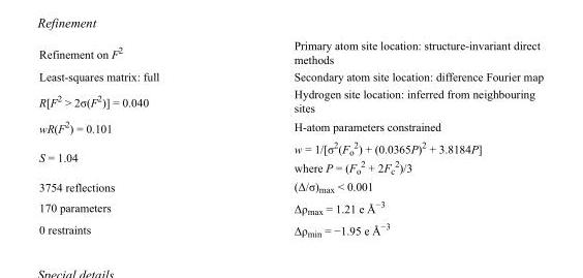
<table><tbody><tr><td>Refinement on F<sup>2</sup></td><td>Primary atom site location: structure-invariant direct methods</td></tr><tr><td>Least-squares matrix: full</td><td>Secondary atom site location: difference Fourier map</td></tr><tr><td>R[F<sup>2</sup> &gt; 2σ(F<sup>2</sup>)] = 0.040</td><td>Hydrogen site location: inferred from neighbouring sites</td></tr><tr><td>wR(F<sup>2</sup>) = 0.101</td><td>H-atom parameters constrained</td></tr><tr><td>S = 1.04</td><td>w = 1/[σ<sup>2</sup>(F<sub>o</sub> <sup>2</sup>) + (0.0365P)<sup>2</sup> + 3.8184P] where P = (F<sub>o</sub> <sup>2</sup> + 2F<sub>c</sub> <sup>2</sup>)/3</td></tr><tr><td>3754 reflections</td><td>(Δ/σ)<sub>max</sub> &lt; 0.001</td></tr><tr><td>170 parameters</td><td>Δρ<sub>max</sub> = 1.21 e Å<sup>−3</sup></td></tr><tr><td>0 restraints</td><td>Δρ<sub>min</sub> = −1.95 e Å<sup>−3</sup></td></tr></tbody></table>